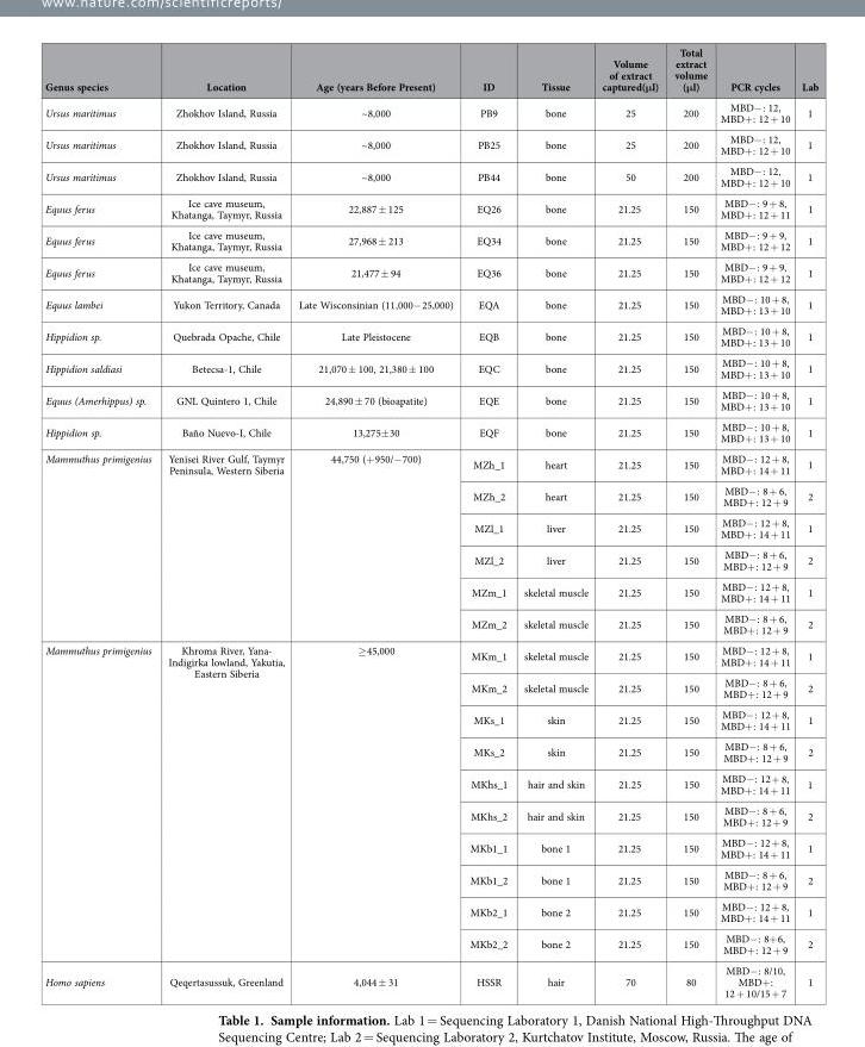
<table><thead><tr><td>Genus species</td><td>Location</td><td>Age (years Before Present)</td><td>ID</td><td>Tissue</td><td>Volume of extract captured(μl)</td><td>Total extract volume (μl)</td><td>PCR cycles</td><td>Lab</td></tr></thead><tbody><tr><td>Ursus maritimus</td><td>Zhokhov Island, Russia</td><td>~8,000</td><td>PB9</td><td>bone</td><td>25</td><td>200</td><td>MBD− : 12, MBD+ : 12 + 10</td><td>1</td></tr><tr><td>Ursus maritimus</td><td>Zhokhov Island, Russia</td><td>~8,000</td><td>PB25</td><td>bone</td><td>25</td><td>200</td><td>MBD− : 12, MBD+ : 12 + 10</td><td>1</td></tr><tr><td>Ursus maritimus</td><td>Zhokhov Island, Russia</td><td>~8,000</td><td>PB44</td><td>bone</td><td>50</td><td>200</td><td>MBD− : 12, MBD+ : 12 + 10</td><td>1</td></tr><tr><td>Equus ferus</td><td>Ice cave museum, Khatanga, Taymyr, Russia</td><td>22,887 ± 125</td><td>EQ26</td><td>bone</td><td>21.25</td><td>150</td><td>MBD− : 9 + 8, MBD+ : 12 + 11</td><td>1</td></tr><tr><td>Equus ferus</td><td>Ice cave museum, Khatanga, Taymyr, Russia</td><td>27,968 ± 213</td><td>EQ34</td><td>bone</td><td>21.25</td><td>150</td><td>MBD− : 9 + 9, MBD+ : 12 + 12</td><td>1</td></tr><tr><td>Equus ferus</td><td>Ice cave museum, Khatanga, Taymyr, Russia</td><td>21,477 ± 94</td><td>EQ36</td><td>bone</td><td>21.25</td><td>150</td><td>MBD− : 9 + 9, MBD+ : 12 + 12</td><td>1</td></tr><tr><td>Equus lambei</td><td>Yukon Territory, Canada</td><td>Late Wisconsinian (11,000− 25,000)</td><td>EQA</td><td>bone</td><td>21.25</td><td>150</td><td>MBD− : 10 + 8, MBD+ : 13 + 10</td><td>1</td></tr><tr><td>Hippidion sp.</td><td>Quebrada Opache, Chile</td><td>Late Pleistocene</td><td>EQB</td><td>bone</td><td>21.25</td><td>150</td><td>MBD− : 10 + 8, MBD+ : 13 + 10</td><td>1</td></tr><tr><td>Hippidion saldiasi</td><td>Betecsa-1, Chile</td><td>21,070 ± 100, 21,380 ± 100</td><td>EQC</td><td>bone</td><td>21.25</td><td>150</td><td>MBD− : 10 + 8, MBD+ : 13 + 10</td><td>1</td></tr><tr><td>Equus (Amerhippus) sp.</td><td>GNL Quintero 1, Chile</td><td>24,890 ± 70 (bioapatite)</td><td>EQE</td><td>bone</td><td>21.25</td><td>150</td><td>MBD− : 10 + 8, MBD+ : 13 + 10</td><td>1</td></tr><tr><td>Hippidion sp.</td><td>Baño Nuevo-I, Chile</td><td>13,275± 30</td><td>EQF</td><td>bone</td><td>21.25</td><td>150</td><td>MBD− : 10 + 8, MBD+ : 13 + 10</td><td>1</td></tr><tr><td rowspan="6">Mammuthus primigenius</td><td rowspan="6">Yenisei River Gulf, Taymyr Peninsula, Western Siberia</td><td rowspan="6">44,750 (+ 950/− 700)</td><td>MZh_1</td><td>heart</td><td>21.25</td><td>150</td><td>MBD− : 12 + 8, MBD+ : 14 + 11</td><td>1</td></tr><tr><td>MZh_2</td><td>heart</td><td>21.25</td><td>150</td><td>MBD− : 8 + 6, MBD+ : 12 + 9</td><td>2</td></tr><tr><td>MZl_1</td><td>liver</td><td>21.25</td><td>150</td><td>MBD− : 12 + 8, MBD+ : 14 + 11</td><td>1</td></tr><tr><td>MZl_2</td><td>liver</td><td>21.25</td><td>150</td><td>MBD− : 8 + 6, MBD+ : 12 + 9</td><td>2</td></tr><tr><td>MZm_1</td><td>skeletal muscle</td><td>21.25</td><td>150</td><td>MBD− : 12 + 8, MBD+ : 14 + 11</td><td>1</td></tr><tr><td>MZm_2</td><td>skeletal muscle</td><td>21.25</td><td>150</td><td>MBD− : 8 + 6, MBD+ : 12 + 9</td><td>2</td></tr><tr><td rowspan="10">Mammuthus primigenius</td><td rowspan="10">Khroma River, Yana- Indigirka lowland, Yakutia, Eastern Siberia</td><td rowspan="10">≥ 45,000</td><td>MKm_1</td><td>skeletal muscle</td><td>21.25</td><td>150</td><td>MBD− : 12 + 8, MBD+ : 14 + 11</td><td>1</td></tr><tr><td>MKm_2</td><td>skeletal muscle</td><td>21.25</td><td>150</td><td>MBD− : 8 + 6, MBD+ : 12 + 9</td><td>2</td></tr><tr><td>MKs_1</td><td>skin</td><td>21.25</td><td>150</td><td>MBD− : 12 + 8, MBD+ : 14 + 11</td><td>1</td></tr><tr><td>MKs_2</td><td>skin</td><td>21.25</td><td>150</td><td>MBD− : 8 + 6, MBD+ : 12 + 9</td><td>2</td></tr><tr><td>MKhs_1</td><td>hair and skin</td><td>21.25</td><td>150</td><td>MBD− : 12 + 8, MBD+ : 14 + 11</td><td>1</td></tr><tr><td>MKhs_2</td><td>hair and skin</td><td>21.25</td><td>150</td><td>MBD− : 8 + 6, MBD+ : 12 + 9</td><td>2</td></tr><tr><td>MKb1_1</td><td>bone 1</td><td>21.25</td><td>150</td><td>MBD− : 12 + 8, MBD+ : 14 + 11</td><td>1</td></tr><tr><td>MKb1_2</td><td>bone 1</td><td>21.25</td><td>150</td><td>MBD− : 8 + 6, MBD+ : 12 + 9</td><td>2</td></tr><tr><td>MKb2_1</td><td>bone 2</td><td>21.25</td><td>150</td><td>MBD− : 12 + 8, MBD+ : 14 + 11</td><td>1</td></tr><tr><td>MKb2_2</td><td>bone 2</td><td>21.25</td><td>150</td><td>MBD− : 8+ 6, MBD+ : 12 + 9</td><td>2</td></tr><tr><td>Homo sapiens</td><td>Qeqertasussuk, Greenland</td><td>4,044 ± 31</td><td>HSSR</td><td>hair</td><td>70</td><td>80</td><td>MBD− : 8/10, MBD+ : 12 + 10/15 + 7</td><td>1</td></tr></tbody></table>